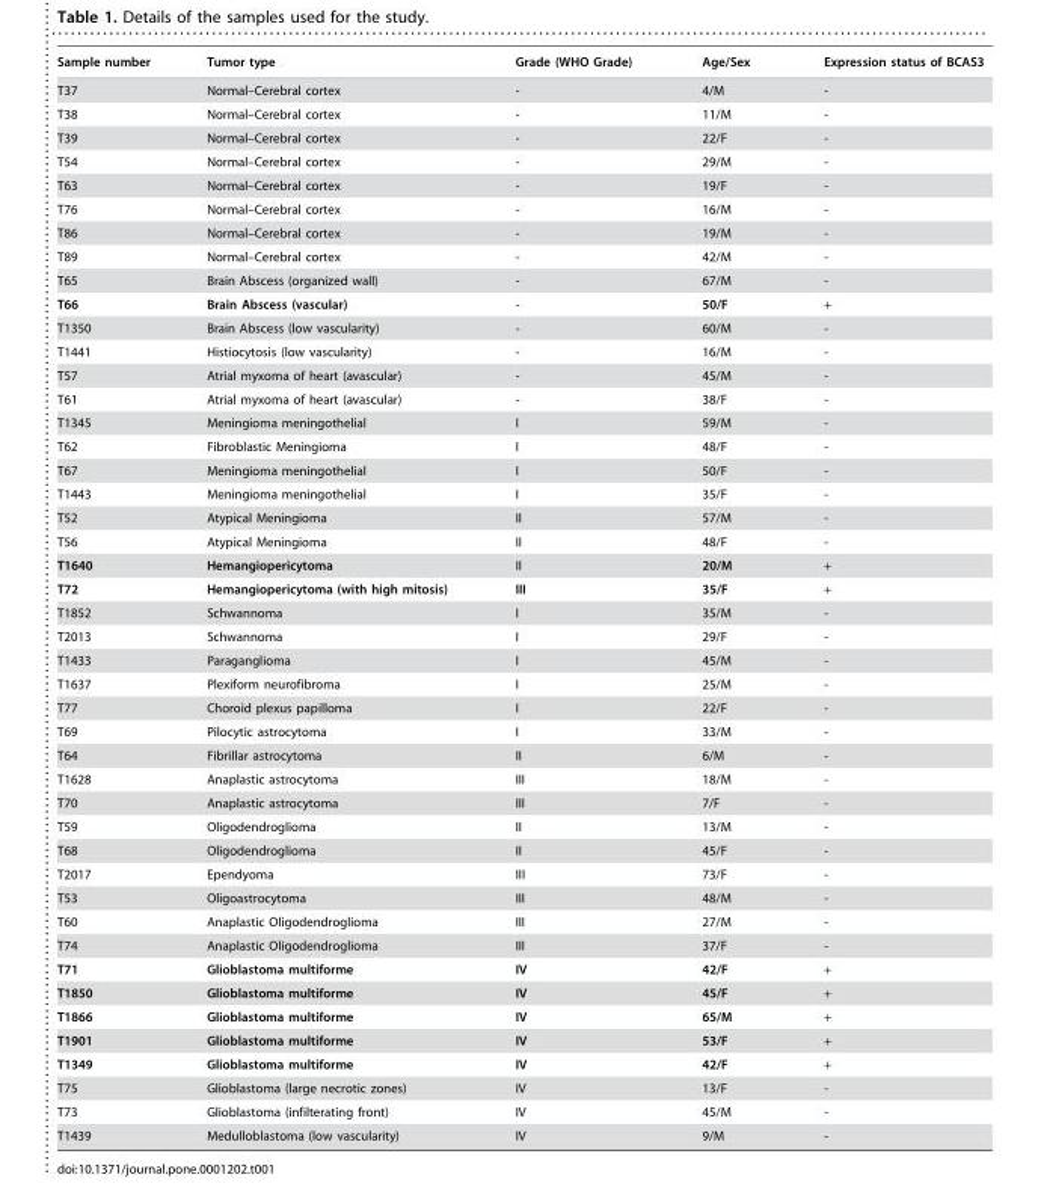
<table><thead><tr><td>Sample number</td><td>Tumor type</td><td>Grade (WHO Grade)</td><td>Age/Sex</td><td>Expression status of BCAS3</td></tr></thead><tbody><tr><td>T37</td><td>Normal–Cerebral cortex</td><td>-</td><td>4/M</td><td>-</td></tr><tr><td>T38</td><td>Normal–Cerebral cortex</td><td>-</td><td>11/M</td><td>-</td></tr><tr><td>T39</td><td>Normal–Cerebral cortex</td><td>-</td><td>22/F</td><td>-</td></tr><tr><td>T54</td><td>Normal–Cerebral cortex</td><td>-</td><td>29/M</td><td>-</td></tr><tr><td>T63</td><td>Normal–Cerebral cortex</td><td>-</td><td>19/F</td><td>-</td></tr><tr><td>T76</td><td>Normal–Cerebral cortex</td><td>-</td><td>16/M</td><td>-</td></tr><tr><td>T86</td><td>Normal–Cerebral cortex</td><td>-</td><td>19/M</td><td>-</td></tr><tr><td>T89</td><td>Normal–Cerebral cortex</td><td>-</td><td>42/M</td><td>-</td></tr><tr><td>T65</td><td>Brain Abscess (organized wall)</td><td>-</td><td>67/M</td><td>-</td></tr><tr><td>T66</td><td>Brain Abscess (vascular)</td><td>-</td><td>50/F</td><td>+</td></tr><tr><td>T1350</td><td>Brain Abscess (low vascularity)</td><td>-</td><td>60/M</td><td>-</td></tr><tr><td>T1441</td><td>Histiocytosis (low vascularity)</td><td>-</td><td>16/M</td><td>-</td></tr><tr><td>T57</td><td>Atrial myxoma of heart (avascular)</td><td>-</td><td>45/M</td><td>-</td></tr><tr><td>T61</td><td>Atrial myxoma of heart (avascular)</td><td>-</td><td>38/F</td><td>-</td></tr><tr><td>T1345</td><td>Meningioma meningothelial</td><td>I</td><td>59/M</td><td>-</td></tr><tr><td>T62</td><td>Fibroblastic Meningioma</td><td>I</td><td>48/F</td><td>-</td></tr><tr><td>T67</td><td>Meningioma meningothelial</td><td>I</td><td>50/F</td><td>-</td></tr><tr><td>T1443</td><td>Meningioma meningothelial</td><td>I</td><td>35/F</td><td>-</td></tr><tr><td>T52</td><td>Atypical Meningioma</td><td>II</td><td>57/M</td><td>-</td></tr><tr><td>T56</td><td>Atypical Meningioma</td><td>II</td><td>48/F</td><td>-</td></tr><tr><td>T1640</td><td>Hemangiopericytoma</td><td>II</td><td>20/M</td><td>+</td></tr><tr><td>T72</td><td>Hemangiopericytoma (with high mitosis)</td><td>III</td><td>35/F</td><td>+</td></tr><tr><td>T1852</td><td>Schwannoma</td><td>I</td><td>35/M</td><td>-</td></tr><tr><td>T2013</td><td>Schwannoma</td><td>I</td><td>29/F</td><td>-</td></tr><tr><td>T1433</td><td>Paraganglioma</td><td>I</td><td>45/M</td><td>-</td></tr><tr><td>T1637</td><td>Plexiform neurofibroma</td><td>I</td><td>25/M</td><td>-</td></tr><tr><td>T77</td><td>Choroid plexus papilloma</td><td>I</td><td>22/F</td><td>-</td></tr><tr><td>T69</td><td>Pilocytic astrocytoma</td><td>I</td><td>33/M</td><td>-</td></tr><tr><td>T64</td><td>Fibrillar astrocytoma</td><td>II</td><td>6/M</td><td>-</td></tr><tr><td>T1628</td><td>Anaplastic astrocytoma</td><td>III</td><td>18/M</td><td>-</td></tr><tr><td>T70</td><td>Anaplastic astrocytoma</td><td>III</td><td>7/F</td><td>-</td></tr><tr><td>T59</td><td>Oligodendroglioma</td><td>II</td><td>13/M</td><td>-</td></tr><tr><td>T68</td><td>Oligodendroglioma</td><td>II</td><td>45/F</td><td>-</td></tr><tr><td>T2017</td><td>Ependyoma</td><td>III</td><td>73/F</td><td>-</td></tr><tr><td>T53</td><td>Oligoastrocytoma</td><td>III</td><td>48/M</td><td>-</td></tr><tr><td>T60</td><td>Anaplastic Oligodendroglioma</td><td>III</td><td>27/M</td><td>-</td></tr><tr><td>T74</td><td>Anaplastic Oligodendroglioma</td><td>III</td><td>37/F</td><td>-</td></tr><tr><td>T71</td><td>Glioblastoma multiforme</td><td>IV</td><td>42/F</td><td>+</td></tr><tr><td>T1850</td><td>Glioblastoma multiforme</td><td>IV</td><td>45/F</td><td>+</td></tr><tr><td>T1866</td><td>Glioblastoma multiforme</td><td>IV</td><td>65/M</td><td>+</td></tr><tr><td>T1901</td><td>Glioblastoma multiforme</td><td>IV</td><td>53/F</td><td>+</td></tr><tr><td>T1349</td><td>Glioblastoma multiforme</td><td>IV</td><td>42/F</td><td>+</td></tr><tr><td>T75</td><td>Glioblastoma (large necrotic zones)</td><td>IV</td><td>13/F</td><td>-</td></tr><tr><td>T73</td><td>Glioblastoma (infilterating front)</td><td>IV</td><td>45/M</td><td>-</td></tr><tr><td>T1439</td><td>Medulloblastoma (low vascularity)</td><td>IV</td><td>9/M</td><td>-</td></tr></tbody></table>